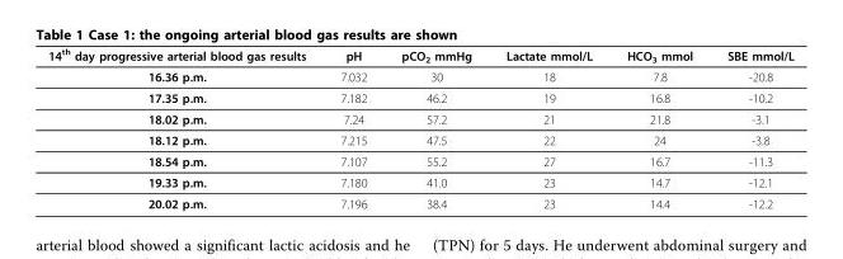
<table><thead><tr><td>14<sup>th</sup> day progressive arterial blood gas results</td><td>pH</td><td>pCO<sub>2</sub> mmHg</td><td>Lactate mmol/L</td><td>HCO<sub>3</sub> mmol</td><td>SBE mmol/L</td></tr></thead><tbody><tr><td>16.36 p.m.</td><td>7.032</td><td>30</td><td>18</td><td>7.8</td><td>-20.8</td></tr><tr><td>17.35 p.m.</td><td>7.182</td><td>46.2</td><td>19</td><td>16.8</td><td>-10.2</td></tr><tr><td>18.02 p.m.</td><td>7.24</td><td>57.2</td><td>21</td><td>21.8</td><td>-3.1</td></tr><tr><td>18.12 p.m.</td><td>7.215</td><td>47.5</td><td>22</td><td>24</td><td>-3.8</td></tr><tr><td>18.54 p.m.</td><td>7.107</td><td>55.2</td><td>27</td><td>16.7</td><td>-11.3</td></tr><tr><td>19.33 p.m.</td><td>7.180</td><td>41.0</td><td>23</td><td>14.7</td><td>-12.1</td></tr><tr><td>20.02 p.m.</td><td>7.196</td><td>38.4</td><td>23</td><td>14.4</td><td>-12.2</td></tr></tbody></table>